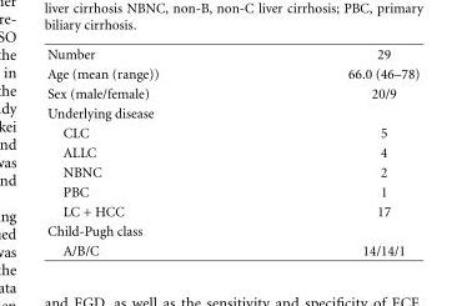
<table><tbody><tr><td>Number</td><td>29</td></tr><tr><td>Age (mean (range))</td><td>66.0 (46–78)</td></tr><tr><td>Sex (male/female)</td><td>20/9</td></tr><tr><td colspan="2">Underlying disease</td></tr><tr><td>CLC</td><td>5</td></tr><tr><td>ALLC</td><td>4</td></tr><tr><td>NBNC</td><td>2</td></tr><tr><td>PBC</td><td>1</td></tr><tr><td>LC + HCC</td><td>17</td></tr><tr><td colspan="2">Child-Pugh class</td></tr><tr><td>A/B/C</td><td>14/14/1</td></tr></tbody></table>